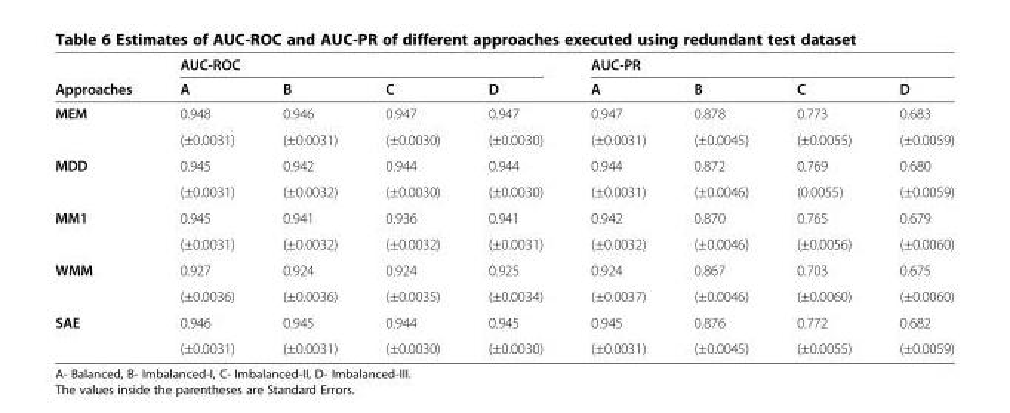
<table><thead><tr><td rowspan="2">Approaches</td><td colspan="4">AUC-ROC</td><td colspan="4">AUC-PR</td></tr><tr><td>A</td><td>B</td><td>C</td><td>D</td><td>A</td><td>B</td><td>C</td><td>D</td></tr></thead><tbody><tr><td rowspan="2">MEM</td><td>0.948</td><td>0.946</td><td>0.947</td><td>0.947</td><td>0.947</td><td>0.878</td><td>0.773</td><td>0.683</td></tr><tr><td>(±0.0031)</td><td>(±0.0031)</td><td>(±0.0030)</td><td>(±0.0030)</td><td>(±0.0031)</td><td>(±0.0045)</td><td>(±0.0055)</td><td>(±0.0059)</td></tr><tr><td rowspan="2">MDD</td><td>0.945</td><td>0.942</td><td>0.944</td><td>0.944</td><td>0.944</td><td>0.872</td><td>0.769</td><td>0.680</td></tr><tr><td>(±0.0031)</td><td>(±0.0032)</td><td>(±0.0030)</td><td>(±0.0030)</td><td>(±0.0031)</td><td>(±0.0046)</td><td>(0.0055)</td><td>(±0.0059)</td></tr><tr><td rowspan="2">MM1</td><td>0.945</td><td>0.941</td><td>0.936</td><td>0.941</td><td>0.942</td><td>0.870</td><td>0.765</td><td>0.679</td></tr><tr><td>(±0.0031)</td><td>(±0.0032)</td><td>(±0.0032)</td><td>(±0.0031)</td><td>(±0.0032)</td><td>(±0.0046)</td><td>(±0.0056)</td><td>(±0.0060)</td></tr><tr><td rowspan="2">WMM</td><td>0.927</td><td>0.924</td><td>0.924</td><td>0.925</td><td>0.924</td><td>0.867</td><td>0.703</td><td>0.675</td></tr><tr><td>(±0.0036)</td><td>(±0.0036)</td><td>(±0.0035)</td><td>(±0.0034)</td><td>(±0.0037)</td><td>(±0.0046)</td><td>(±0.0060)</td><td>(±0.0060)</td></tr><tr><td rowspan="2">SAE</td><td>0.946</td><td>0.945</td><td>0.944</td><td>0.945</td><td>0.945</td><td>0.876</td><td>0.772</td><td>0.682</td></tr><tr><td>(±0.0031)</td><td>(±0.0031)</td><td>(±0.0030)</td><td>(±0.0030)</td><td>(±0.0031)</td><td>(±0.0045)</td><td>(±0.0055)</td><td>(±0.0059)</td></tr></tbody></table>